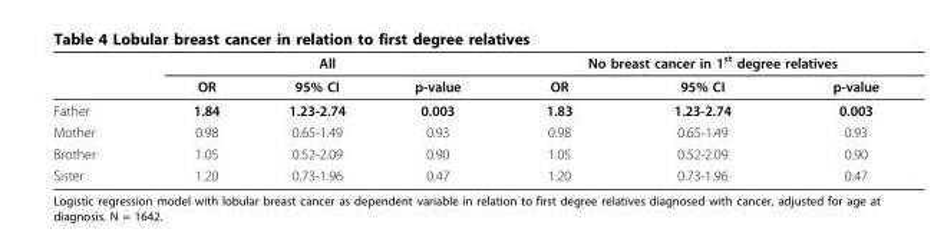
<table><thead><tr><td rowspan="2"></td><td colspan="3">All</td><td colspan="3">No breast cancer in 1<sup>st</sup> degree relatives</td></tr><tr><td>OR</td><td>95% CI</td><td>p-value</td><td>OR</td><td>95% CI</td><td>p-value</td></tr></thead><tbody><tr><td>Father</td><td>1.84</td><td>1.23-2.74</td><td>0.003</td><td>1.83</td><td>1.23-2.74</td><td>0.003</td></tr><tr><td>Mother</td><td>0.98</td><td>0.65-1.49</td><td>0.93</td><td>0.98</td><td>0.65-1.49</td><td>0.93</td></tr><tr><td>Brother</td><td>1.05</td><td>0.52-2.09</td><td>0.90</td><td>1.05</td><td>0.52-2.09</td><td>0.90</td></tr><tr><td>Sister</td><td>1.20</td><td>0.73-1.96</td><td>0.47</td><td>1.20</td><td>0.73-1.96</td><td>0.47</td></tr></tbody></table>